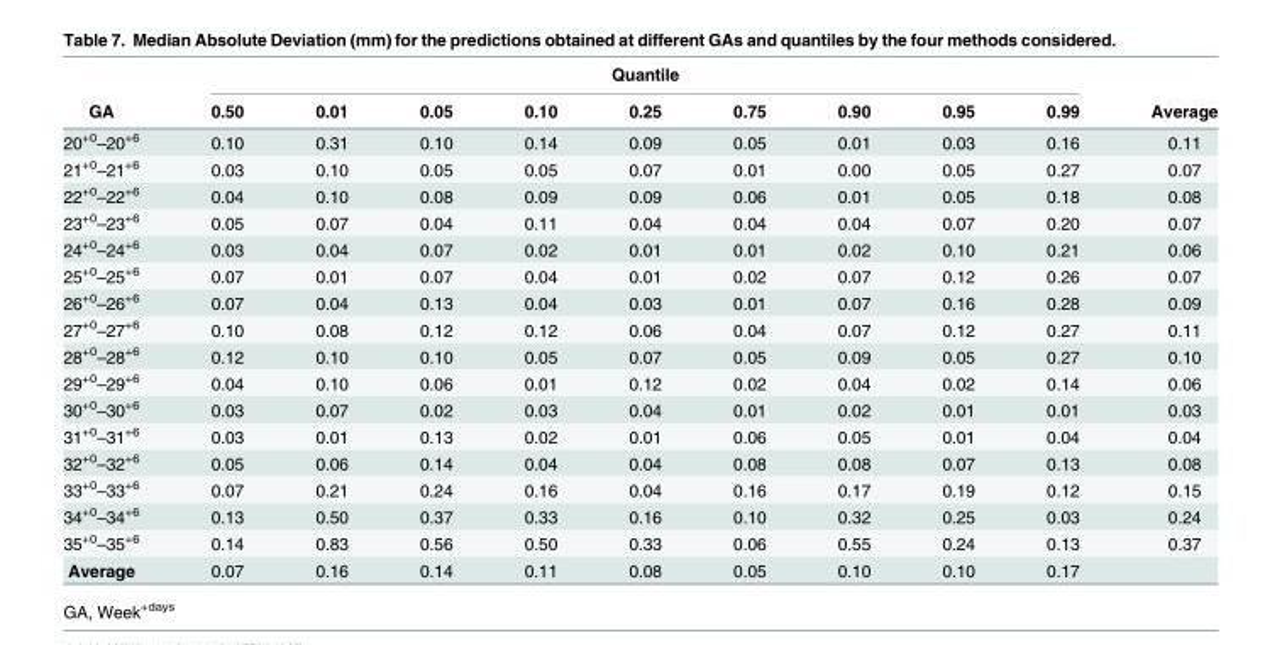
<table><thead><tr><td rowspan="2">GA</td><td colspan="9">Quantile</td><td rowspan="2">Average</td></tr><tr><td>0.50</td><td>0.01</td><td>0.05</td><td>0.10</td><td>0.25</td><td>0.75</td><td>0.90</td><td>0.95</td><td>0.99</td></tr></thead><tbody><tr><td>20<sup>+0</sup>–20<sup>+6</sup></td><td>0.10</td><td>0.31</td><td>0.10</td><td>0.14</td><td>0.09</td><td>0.05</td><td>0.01</td><td>0.03</td><td>0.16</td><td>0.11</td></tr><tr><td>21<sup>+0</sup>–21<sup>+6</sup></td><td>0.03</td><td>0.10</td><td>0.05</td><td>0.05</td><td>0.07</td><td>0.01</td><td>0.00</td><td>0.05</td><td>0.27</td><td>0.07</td></tr><tr><td>22<sup>+0</sup>–22<sup>+6</sup></td><td>0.04</td><td>0.10</td><td>0.08</td><td>0.09</td><td>0.09</td><td>0.06</td><td>0.01</td><td>0.05</td><td>0.18</td><td>0.08</td></tr><tr><td>23<sup>+0</sup>–23<sup>+6</sup></td><td>0.05</td><td>0.07</td><td>0.04</td><td>0.11</td><td>0.04</td><td>0.04</td><td>0.04</td><td>0.07</td><td>0.20</td><td>0.07</td></tr><tr><td>24<sup>+0</sup>–24<sup>+6</sup></td><td>0.03</td><td>0.04</td><td>0.07</td><td>0.02</td><td>0.01</td><td>0.01</td><td>0.02</td><td>0.10</td><td>0.21</td><td>0.06</td></tr><tr><td>25<sup>+0</sup>–25<sup>+6</sup></td><td>0.07</td><td>0.01</td><td>0.07</td><td>0.04</td><td>0.01</td><td>0.02</td><td>0.07</td><td>0.12</td><td>0.26</td><td>0.07</td></tr><tr><td>26<sup>+0</sup>–26<sup>+6</sup></td><td>0.07</td><td>0.04</td><td>0.13</td><td>0.04</td><td>0.03</td><td>0.01</td><td>0.07</td><td>0.16</td><td>0.28</td><td>0.09</td></tr><tr><td>27<sup>+0</sup>–27<sup>+6</sup></td><td>0.10</td><td>0.08</td><td>0.12</td><td>0.12</td><td>0.06</td><td>0.04</td><td>0.07</td><td>0.12</td><td>0.27</td><td>0.11</td></tr><tr><td>28<sup>+0</sup>–28<sup>+6</sup></td><td>0.12</td><td>0.10</td><td>0.10</td><td>0.05</td><td>0.07</td><td>0.05</td><td>0.09</td><td>0.05</td><td>0.27</td><td>0.10</td></tr><tr><td>29<sup>+0</sup>–29<sup>+6</sup></td><td>0.04</td><td>0.10</td><td>0.06</td><td>0.01</td><td>0.12</td><td>0.02</td><td>0.04</td><td>0.02</td><td>0.14</td><td>0.06</td></tr><tr><td>30<sup>+0</sup>–30<sup>+6</sup></td><td>0.03</td><td>0.07</td><td>0.02</td><td>0.03</td><td>0.04</td><td>0.01</td><td>0.02</td><td>0.01</td><td>0.01</td><td>0.03</td></tr><tr><td>31<sup>+0</sup>–31<sup>+6</sup></td><td>0.03</td><td>0.01</td><td>0.13</td><td>0.02</td><td>0.01</td><td>0.06</td><td>0.05</td><td>0.01</td><td>0.04</td><td>0.04</td></tr><tr><td>32<sup>+0</sup>–32<sup>+6</sup></td><td>0.05</td><td>0.06</td><td>0.14</td><td>0.04</td><td>0.04</td><td>0.08</td><td>0.08</td><td>0.07</td><td>0.13</td><td>0.08</td></tr><tr><td>33<sup>+0</sup>–33<sup>+6</sup></td><td>0.07</td><td>0.21</td><td>0.24</td><td>0.16</td><td>0.04</td><td>0.16</td><td>0.17</td><td>0.19</td><td>0.12</td><td>0.15</td></tr><tr><td>34<sup>+0</sup>–34<sup>+6</sup></td><td>0.13</td><td>0.50</td><td>0.37</td><td>0.33</td><td>0.16</td><td>0.10</td><td>0.32</td><td>0.25</td><td>0.03</td><td>0.24</td></tr><tr><td>35<sup>+0</sup>–35<sup>+6</sup></td><td>0.14</td><td>0.83</td><td>0.56</td><td>0.50</td><td>0.33</td><td>0.06</td><td>0.55</td><td>0.24</td><td>0.13</td><td>0.37</td></tr><tr><td>Average</td><td>0.07</td><td>0.16</td><td>0.14</td><td>0.11</td><td>0.08</td><td>0.05</td><td>0.10</td><td>0.10</td><td>0.17</td><td></td></tr></tbody></table>